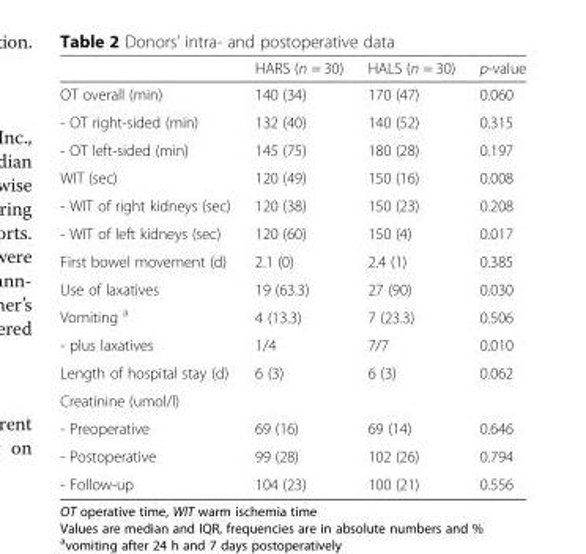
<table><thead><tr><td></td><td>HARS (n = 30)</td><td>HALS (n = 30)</td><td>p-value</td></tr></thead><tbody><tr><td>OT overall (min)</td><td>140 (34)</td><td>170 (47)</td><td>0.060</td></tr><tr><td>- OT right-sided (min)</td><td>132 (40)</td><td>140 (52)</td><td>0.315</td></tr><tr><td>- OT left-sided (min)</td><td>145 (75)</td><td>180 (28)</td><td>0.197</td></tr><tr><td>WIT (sec)</td><td>120 (49)</td><td>150 (16)</td><td>0.008</td></tr><tr><td>- WIT of right kidneys (sec)</td><td>120 (38)</td><td>150 (23)</td><td>0.208</td></tr><tr><td>- WIT of left kidneys (sec)</td><td>120 (60)</td><td>150 (4)</td><td>0.017</td></tr><tr><td>First bowel movement (d)</td><td>2.1 (0)</td><td>2.4 (1)</td><td>0.385</td></tr><tr><td>Use of laxatives</td><td>19 (63.3)</td><td>27 (90)</td><td>0.030</td></tr><tr><td>Vomiting <sup>a</sup></td><td>4 (13.3)</td><td>7 (23.3)</td><td>0.506</td></tr><tr><td>- plus laxatives</td><td>1/4</td><td>7/7</td><td>0.010</td></tr><tr><td>Length of hospital stay (d)</td><td>6 (3)</td><td>6 (3)</td><td>0.062</td></tr><tr><td colspan="4">Creatinine (umol/l)</td></tr><tr><td>- Preoperative</td><td>69 (16)</td><td>69 (14)</td><td>0.646</td></tr><tr><td>- Postoperative</td><td>99 (28)</td><td>102 (26)</td><td>0.794</td></tr><tr><td>- Follow-up</td><td>104 (23)</td><td>100 (21)</td><td>0.556</td></tr></tbody></table>